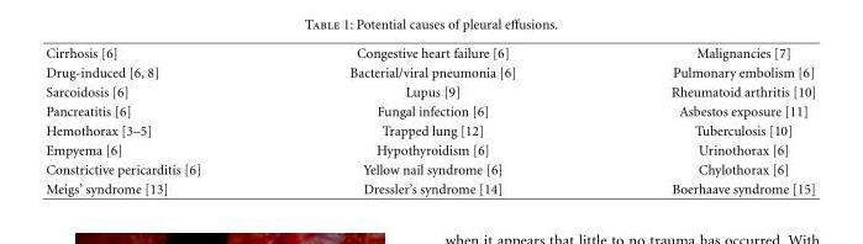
<table><tbody><tr><td>Cirrhosis [6]</td><td>Congestive heart failure [6]</td><td>Malignancies [7]</td></tr><tr><td>Drug-induced [6, 8]</td><td>Bacterial/viral pneumonia [6]</td><td>Pulmonary embolism [6]</td></tr><tr><td>Sarcoidosis [6]</td><td>Lupus [9]</td><td>Rheumatoid arthritis [10]</td></tr><tr><td>Pancreatitis [6]</td><td>Fungal infection [6]</td><td>Asbestos exposure [11]</td></tr><tr><td>Hemothorax [3–5]</td><td>Trapped lung [12]</td><td>Tuberculosis [10]</td></tr><tr><td>Empyema [6]</td><td>Hypothyroidism [6]</td><td>Urinothorax [6]</td></tr><tr><td>Constrictive pericarditis [6]</td><td>Yellow nail syndrome [6]</td><td>Chylothorax [6]</td></tr><tr><td>Meigs’ syndrome [13]</td><td>Dressler’s syndrome [14]</td><td>Boerhaave syndrome [15]</td></tr></tbody></table>